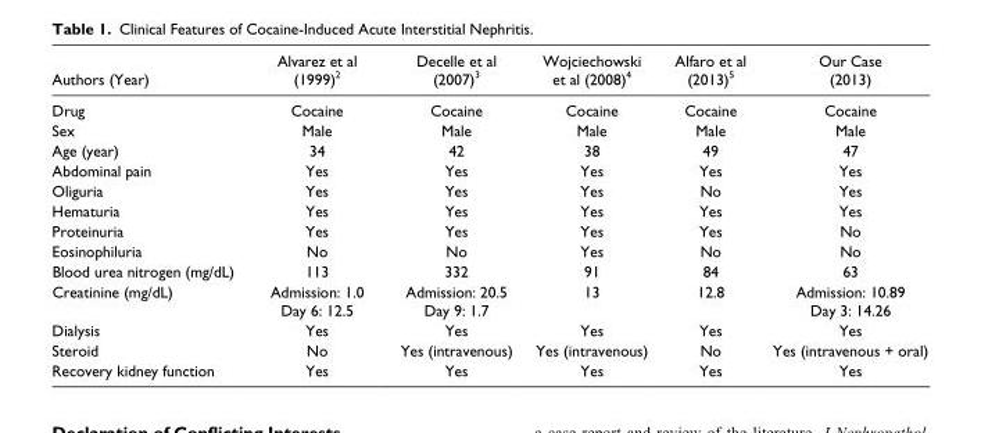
<table><thead><tr><td>Authors (Year)</td><td>Alvarez et al (1999)<sup>2</sup></td><td>Decelle et al (2007)<sup>3</sup></td><td>Wojciechowski et al (2008)<sup>4</sup></td><td>Alfaro et al (2013)<sup>5</sup></td><td>Our Case (2013)</td></tr></thead><tbody><tr><td>Drug</td><td>Cocaine</td><td>Cocaine</td><td>Cocaine</td><td>Cocaine</td><td>Cocaine</td></tr><tr><td>Sex</td><td>Male</td><td>Male</td><td>Male</td><td>Male</td><td>Male</td></tr><tr><td>Age (year)</td><td>34</td><td>42</td><td>38</td><td>49</td><td>47</td></tr><tr><td>Abdominal pain</td><td>Yes</td><td>Yes</td><td>Yes</td><td>Yes</td><td>Yes</td></tr><tr><td>Oliguria</td><td>Yes</td><td>Yes</td><td>Yes</td><td>No</td><td>Yes</td></tr><tr><td>Hematuria</td><td>Yes</td><td>Yes</td><td>Yes</td><td>Yes</td><td>Yes</td></tr><tr><td>Proteinuria</td><td>Yes</td><td>Yes</td><td>Yes</td><td>Yes</td><td>No</td></tr><tr><td>Eosinophiluria</td><td>No</td><td>No</td><td>Yes</td><td>No</td><td>No</td></tr><tr><td>Blood urea nitrogen (mg/dL)</td><td>113</td><td>332</td><td>91</td><td>84</td><td>63</td></tr><tr><td>Creatinine (mg/dL)</td><td>Admission: 1.0 Day 6: 12.5</td><td>Admission: 20.5 Day 9: 1.7</td><td>13</td><td>12.8</td><td>Admission: 10.89 Day 3: 14.26</td></tr><tr><td>Dialysis</td><td>Yes</td><td>Yes</td><td>Yes</td><td>Yes</td><td>Yes</td></tr><tr><td>Steroid</td><td>No</td><td>Yes (intravenous)</td><td>Yes (intravenous)</td><td>No</td><td>Yes (intravenous + oral)</td></tr><tr><td>Recovery kidney function</td><td>Yes</td><td>Yes</td><td>Yes</td><td>Yes</td><td>Yes</td></tr></tbody></table>